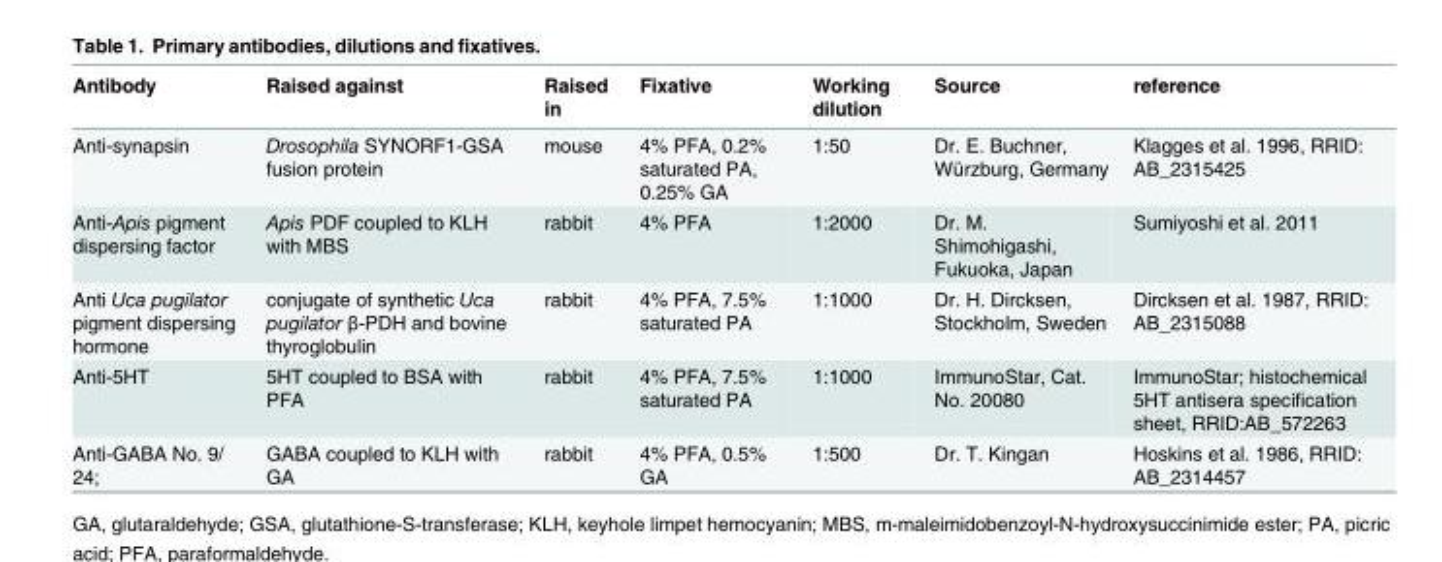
<table><thead><tr><td>Antibody</td><td>Raised against</td><td>Raised in</td><td>Fixative</td><td>Working dilution</td><td>Source</td><td>reference</td></tr></thead><tbody><tr><td>Anti-synapsin</td><td>Drosophila SYNORF1-GSA fusion protein</td><td>mouse</td><td>4% PFA, 0.2% saturated PA, 0.25% GA</td><td>1:50</td><td>Dr. E. Buchner, Würzburg, Germany</td><td>Klagges et al. 1996, RRID: AB_2315425</td></tr><tr><td>Anti-Apis pigment dispersing factor</td><td>Apis PDF coupled to KLH with MBS</td><td>rabbit</td><td>4% PFA</td><td>1:2000</td><td>Dr. M. Shimohigashi, Fukuoka, Japan</td><td>Sumiyoshi et al. 2011</td></tr><tr><td>Anti Uca pugilator pigment dispersing hormone</td><td>conjugate of synthetic Uca pugilator β-PDH and bovine thyroglobulin</td><td>rabbit</td><td>4% PFA, 7.5% saturated PA</td><td>1:1000</td><td>Dr. H. Dircksen, Stockholm, Sweden</td><td>Dircksen et al. 1987, RRID: AB_2315088</td></tr><tr><td>Anti-5HT</td><td>5HT coupled to BSA with PFA</td><td>rabbit</td><td>4% PFA, 7.5% saturated PA</td><td>1:1000</td><td>ImmunoStar, Cat. No. 20080</td><td>ImmunoStar; histochemical 5HT antisera specification sheet, RRID:AB_572263</td></tr><tr><td>Anti-GABA No. 9/ 24;</td><td>GABA coupled to KLH with GA</td><td>rabbit</td><td>4% PFA, 0.5% GA</td><td>1:500</td><td>Dr. T. Kingan</td><td>Hoskins et al. 1986, RRID: AB_2314457</td></tr></tbody></table>